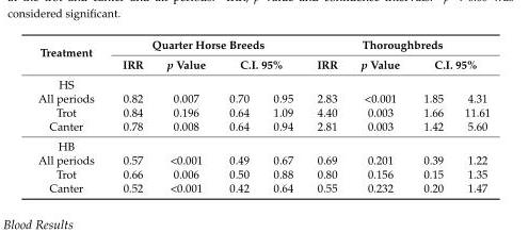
<table><thead><tr><td rowspan="3">Treatment HS</td><td colspan="4">Quarter Horse Breeds</td><td colspan="4">Thoroughbreds</td></tr><tr><td rowspan="2">IRR</td><td rowspan="2">p Value</td><td colspan="2">C.I. 95%</td><td rowspan="2">IRR</td><td rowspan="2">p Value</td><td colspan="2">C.I. 95%</td></tr><tr><td></td><td></td><td></td><td></td></tr></thead><tbody><tr><td>All periods</td><td>0.82</td><td>0.007</td><td>0.70</td><td>0.95</td><td>2.83</td><td>&lt;0.001</td><td>1.85</td><td>4.31</td></tr><tr><td>Trot</td><td>0.84</td><td>0.196</td><td>0.64</td><td>1.09</td><td>4.40</td><td>0.003</td><td>1.66</td><td>11.61</td></tr><tr><td>Canter</td><td>0.78</td><td>0.008</td><td>0.64</td><td>0.94</td><td>2.81</td><td>0.003</td><td>1.42</td><td>5.60</td></tr><tr><td colspan="9">HB</td></tr><tr><td>All periods</td><td>0.57</td><td>&lt;0.001</td><td>0.49</td><td>0.67</td><td>0.69</td><td>0.201</td><td>0.39</td><td>1.22</td></tr><tr><td>Trot</td><td>0.66</td><td>0.006</td><td>0.50</td><td>0.88</td><td>0.80</td><td>0.156</td><td>0.15</td><td>1.35</td></tr><tr><td>Canter</td><td>0.52</td><td>&lt;0.001</td><td>0.42</td><td>0.64</td><td>0.55</td><td>0.232</td><td>0.20</td><td>1.47</td></tr></tbody></table>